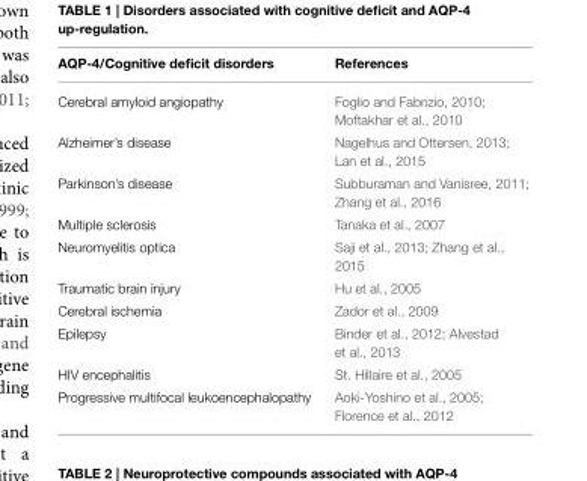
<table><thead><tr><td>AQP-4/Cognitive deficit disorders</td><td>References</td></tr></thead><tbody><tr><td>Cerebral amyloid angiopathy</td><td>Foglio and Fabrizio, 2010; Moftakhar et al., 2010</td></tr><tr><td>Alzheimer’s disease</td><td>Nagelhus and Ottersen, 2013; Lan et al., 2015</td></tr><tr><td>Parkinson’s disease</td><td>Subburaman and Vanisree, 2011; Zhang et al., 2016</td></tr><tr><td>Multiple sclerosis</td><td>Tanaka et al., 2007</td></tr><tr><td>Neuromyelitis optica</td><td>Saji et al., 2013; Zhang et al., 2015</td></tr><tr><td>Traumatic brain injury</td><td>Hu et al., 2005</td></tr><tr><td>Cerebral ischemia</td><td>Zador et al., 2009</td></tr><tr><td>Epilepsy</td><td>Binder et al., 2012; Alvestad et al., 2013</td></tr><tr><td>HIV encephalitis</td><td>St. Hillaire et al., 2005</td></tr><tr><td>Progressive multifocal leukoencephalopathy</td><td>Aoki-Yoshino et al., 2005; Florence et al., 2012</td></tr></tbody></table>